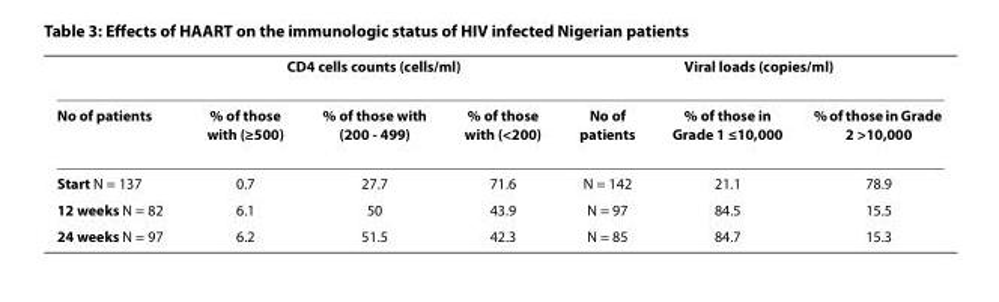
<table><thead><tr><td rowspan="2">No of patients</td><td colspan="3">CD4 cells counts (cells/ml)</td><td colspan="3">Viral loads (copies/ml)</td></tr><tr><td>% of those with (≥500)</td><td>% of those with (200 - 499)</td><td>% of those with (&lt;200)</td><td>No of patients</td><td>% of those in Grade 1 ≤10,000</td><td>% of those in Grade 2 &gt;10,000</td></tr></thead><tbody><tr><td>Start N = 137</td><td>0.7</td><td>27.7</td><td>71.6</td><td>N = 142</td><td>21.1</td><td>78.9</td></tr><tr><td>12 weeks N = 82</td><td>6.1</td><td>50</td><td>43.9</td><td>N = 97</td><td>84.5</td><td>15.5</td></tr><tr><td>24 weeks N = 97</td><td>6.2</td><td>51.5</td><td>42.3</td><td>N = 85</td><td>84.7</td><td>15.3</td></tr></tbody></table>